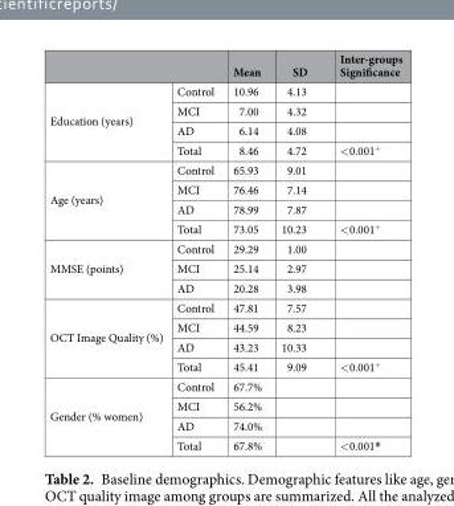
<table><thead><tr><td></td><td></td><td>Mean</td><td>SD</td><td>Inter-groups Significance</td></tr></thead><tbody><tr><td rowspan="4">Education (years)</td><td>Control</td><td>10.96</td><td>4.13</td><td></td></tr><tr><td>MCI</td><td>7.00</td><td>4.32</td><td></td></tr><tr><td>AD</td><td>6.14</td><td>4.08</td><td></td></tr><tr><td>Total</td><td>8.46</td><td>4.72</td><td>&lt;0.001<sup>+</sup></td></tr><tr><td rowspan="4">Age (years)</td><td>Control</td><td>65.93</td><td>9.01</td><td></td></tr><tr><td>MCI</td><td>76.46</td><td>7.14</td><td></td></tr><tr><td>AD</td><td>78.99</td><td>7.87</td><td></td></tr><tr><td>Total</td><td>73.05</td><td>10.23</td><td>&lt;0.001<sup>+</sup></td></tr><tr><td rowspan="3">MMSE (points)</td><td>Control</td><td>29.29</td><td>1.00</td><td></td></tr><tr><td>MCI</td><td>25.14</td><td>2.97</td><td></td></tr><tr><td>AD</td><td>20.28</td><td>3.98</td><td></td></tr><tr><td rowspan="4">OCT Image Quality (%)</td><td>Control</td><td>47.81</td><td>7.57</td><td></td></tr><tr><td>MCI</td><td>44.59</td><td>8.23</td><td></td></tr><tr><td>AD</td><td>43.23</td><td>10.33</td><td></td></tr><tr><td>Total</td><td>45.41</td><td>9.09</td><td>&lt;0.001<sup>+</sup></td></tr><tr><td rowspan="4">Gender (% women)</td><td>Control</td><td>67.7%</td><td></td><td></td></tr><tr><td>MCI</td><td>56.2%</td><td></td><td></td></tr><tr><td>AD</td><td>74.0%</td><td></td><td></td></tr><tr><td>Total</td><td>67.8%</td><td></td><td>&lt;0.001*</td></tr></tbody></table>